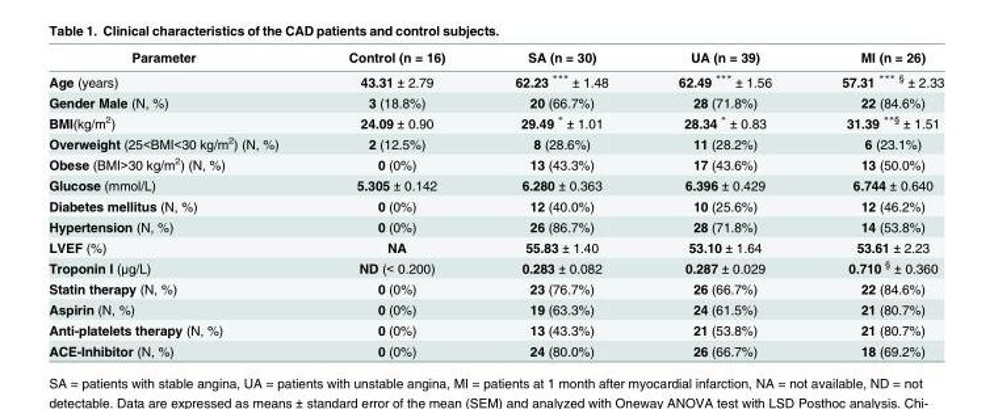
<table><thead><tr><td>Parameter</td><td>Control (n = 16)</td><td>SA (n = 30)</td><td>UA (n = 39)</td><td>MI (n = 26)</td></tr></thead><tbody><tr><td>Age (years)</td><td>43.31 ± 2.79</td><td>62.23 *** ± 1.48</td><td>62.49 *** ± 1.56</td><td>57.31 <sup>*** §</sup> ± 2.33</td></tr><tr><td>Gender Male (N, %)</td><td>3 (18.8%)</td><td>20 (66.7%)</td><td>28 (71.8%)</td><td>22 (84.6%)</td></tr><tr><td>BMI(kg/m<sup>2</sup>)</td><td>24.09 ± 0.90</td><td>29.49 * ± 1.01</td><td>28.34 * ± 0.83</td><td>31.39 <sup>**§</sup> ± 1.51</td></tr><tr><td>Overweight (25&lt;BMI&lt;30 kg/m<sup>2</sup>) (N, %)</td><td>2 (12.5%)</td><td>8 (28.6%)</td><td>11 (28.2%)</td><td>6 (23.1%)</td></tr><tr><td>Obese (BMI&gt;30 kg/m<sup>2</sup>) (N, %)</td><td>0 (0%)</td><td>13 (43.3%)</td><td>17 (43.6%)</td><td>13 (50.0%)</td></tr><tr><td>Glucose (mmol/L)</td><td>5.305 ± 0.142</td><td>6.280 ± 0.363</td><td>6.396 ± 0.429</td><td>6.744 ± 0.640</td></tr><tr><td>Diabetes mellitus (N, %)</td><td>0 (0%)</td><td>12 (40.0%)</td><td>10 (25.6%)</td><td>12 (46.2%)</td></tr><tr><td>Hypertension (N, %)</td><td>0 (0%)</td><td>26 (86.7%)</td><td>28 (71.8%)</td><td>14 (53.8%)</td></tr><tr><td>LVEF (%)</td><td>NA</td><td>55.83 ± 1.40</td><td>53.10 ± 1.64</td><td>53.61 ± 2.23</td></tr><tr><td>Troponin I (μg/L)</td><td>ND (&lt; 0.200)</td><td>0.283 ± 0.082</td><td>0.287 ± 0.029</td><td>0.710 <sup>§</sup> ± 0.360</td></tr><tr><td>Statin therapy (N, %)</td><td>0 (0%)</td><td>23 (76.7%)</td><td>26 (66.7%)</td><td>22 (84.6%)</td></tr><tr><td>Aspirin (N, %)</td><td>0 (0%)</td><td>19 (63.3%)</td><td>24 (61.5%)</td><td>21 (80.7%)</td></tr><tr><td>Anti-platelets therapy (N, %)</td><td>0 (0%)</td><td>13 (43.3%)</td><td>21 (53.8%)</td><td>21 (80.7%)</td></tr><tr><td>ACE-Inhibitor (N, %)</td><td>0 (0%)</td><td>24 (80.0%)</td><td>26 (66.7%)</td><td>18 (69.2%)</td></tr></tbody></table>